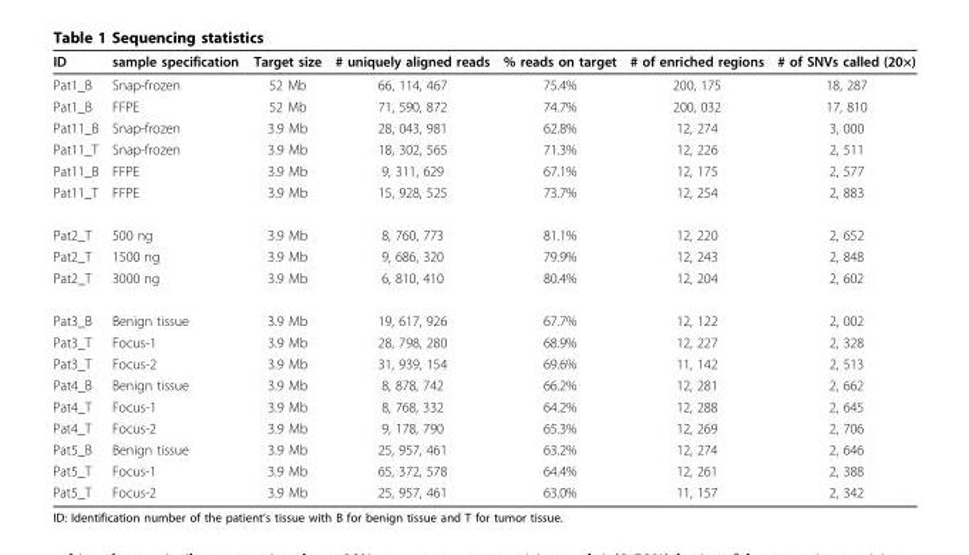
<table><thead><tr><td>ID</td><td>sample specification</td><td>Target size</td><td># uniquely aligned reads</td><td>% reads on target</td><td># of enriched regions</td><td># of SNVs called (20×)</td></tr></thead><tbody><tr><td>Pat1_B</td><td>Snap-frozen</td><td>52 Mb</td><td>66, 114, 467</td><td>75.4%</td><td>200, 175</td><td>18, 287</td></tr><tr><td>Pat1_B</td><td>FFPE</td><td>52 Mb</td><td>71, 590, 872</td><td>74.7%</td><td>200, 032</td><td>17, 810</td></tr><tr><td>Pat11_B</td><td>Snap-frozen</td><td>3.9 Mb</td><td>28, 043, 981</td><td>62.8%</td><td>12, 274</td><td>3, 000</td></tr><tr><td>Pat11_T</td><td>Snap-frozen</td><td>3.9 Mb</td><td>18, 302, 565</td><td>71.3%</td><td>12, 226</td><td>2, 511</td></tr><tr><td>Pat11_B</td><td>FFPE</td><td>3.9 Mb</td><td>9, 311, 629</td><td>67.1%</td><td>12, 175</td><td>2, 577</td></tr><tr><td>Pat11_T</td><td>FFPE</td><td>3.9 Mb</td><td>15, 928, 525</td><td>73.7%</td><td>12, 254</td><td>2, 883</td></tr><tr><td>Pat2_T</td><td>500 ng</td><td>3.9 Mb</td><td>8, 760, 773</td><td>81.1%</td><td>12, 220</td><td>2, 652</td></tr><tr><td>Pat2_T</td><td>1500 ng</td><td>3.9 Mb</td><td>9, 686, 320</td><td>79.9%</td><td>12, 243</td><td>2, 848</td></tr><tr><td>Pat2_T</td><td>3000 ng</td><td>3.9 Mb</td><td>6, 810, 410</td><td>80.4%</td><td>12, 204</td><td>2, 602</td></tr><tr><td>Pat3_B</td><td>Benign tissue</td><td>3.9 Mb</td><td>19, 617, 926</td><td>67.7%</td><td>12, 122</td><td>2, 002</td></tr><tr><td>Pat3_T</td><td>Focus-1</td><td>3.9 Mb</td><td>28, 798, 280</td><td>68.9%</td><td>12, 227</td><td>2, 328</td></tr><tr><td>Pat3_T</td><td>Focus-2</td><td>3.9 Mb</td><td>31, 939, 154</td><td>69.6%</td><td>11, 142</td><td>2, 513</td></tr><tr><td>Pat4_B</td><td>Benign tissue</td><td>3.9 Mb</td><td>8, 878, 742</td><td>66.2%</td><td>12, 281</td><td>2, 662</td></tr><tr><td>Pat4_T</td><td>Focus-1</td><td>3.9 Mb</td><td>8, 768, 332</td><td>64.2%</td><td>12, 288</td><td>2, 645</td></tr><tr><td>Pat4_T</td><td>Focus-2</td><td>3.9 Mb</td><td>9, 178, 790</td><td>65.3%</td><td>12, 269</td><td>2, 706</td></tr><tr><td>Pat5_B</td><td>Benign tissue</td><td>3.9 Mb</td><td>25, 957, 461</td><td>63.2%</td><td>12, 274</td><td>2, 646</td></tr><tr><td>Pat5_T</td><td>Focus-1</td><td>3.9 Mb</td><td>65, 372, 578</td><td>64.4%</td><td>12, 261</td><td>2, 388</td></tr><tr><td>Pat5_T</td><td>Focus-2</td><td>3.9 Mb</td><td>25, 957, 461</td><td>63.0%</td><td>11, 157</td><td>2, 342</td></tr></tbody></table>